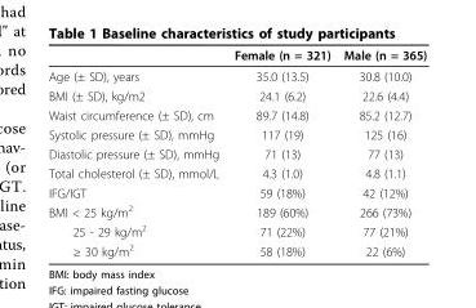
<table><thead><tr><td></td><td>Female (n = 321)</td><td>Male (n = 365)</td></tr></thead><tbody><tr><td>Age (± SD), years</td><td>35.0 (13.5)</td><td>30.8 (10.0)</td></tr><tr><td>BMI (± SD), kg/m2</td><td>24.1 (6.2)</td><td>22.6 (4.4)</td></tr><tr><td>Waist circumference (± SD), cm</td><td>89.7 (14.8)</td><td>85.2 (12.7)</td></tr><tr><td>Systolic pressure (± SD), mmHg</td><td>117 (19)</td><td>125 (16)</td></tr><tr><td>Diastolic pressure (± SD), mmHg</td><td>71 (13)</td><td>77 (13)</td></tr><tr><td>Total cholesterol (± SD), mmol/L</td><td>4.3 (1.0)</td><td>4.8 (1.1)</td></tr><tr><td>IFG/IGT</td><td>59 (18%)</td><td>42 (12%)</td></tr><tr><td>BMI &lt; 25 kg/m<sup>2</sup></td><td>189 (60%)</td><td>266 (73%)</td></tr><tr><td>25 - 29 kg/m<sup>2</sup></td><td>71 (22%)</td><td>77 (21%)</td></tr><tr><td>≥ 30 kg/m<sup>2</sup></td><td>58 (18%)</td><td>22 (6%)</td></tr></tbody></table>